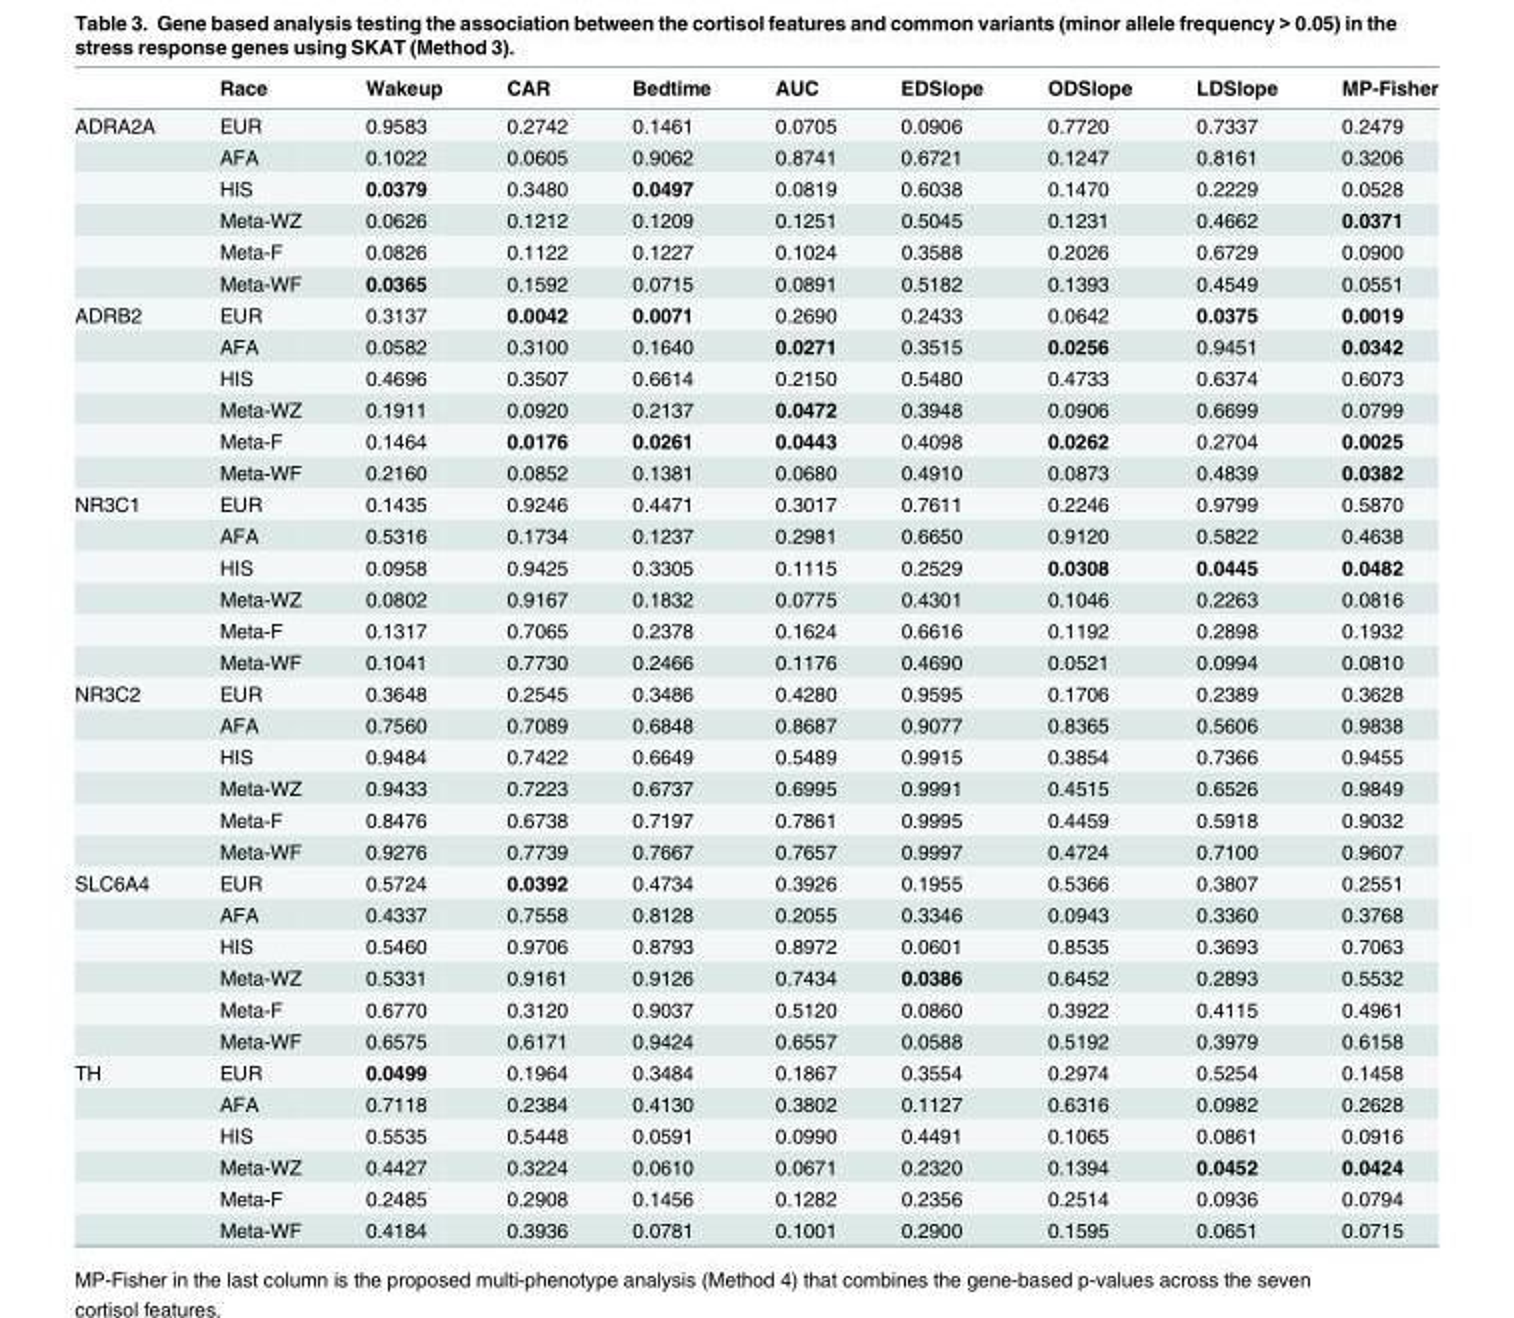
<table><thead><tr><td></td><td>Race</td><td>Wakeup</td><td>CAR</td><td>Bedtime</td><td>AUC</td><td>EDSlope</td><td>ODSlope</td><td>LDSlope</td><td>MP-Fisher</td></tr></thead><tbody><tr><td rowspan="6">ADRA2A</td><td>EUR</td><td>0.9583</td><td>0.2742</td><td>0.1461</td><td>0.0705</td><td>0.0906</td><td>0.7720</td><td>0.7337</td><td>0.2479</td></tr><tr><td>AFA</td><td>0.1022</td><td>0.0605</td><td>0.9062</td><td>0.8741</td><td>0.6721</td><td>0.1247</td><td>0.8161</td><td>0.3206</td></tr><tr><td>HIS</td><td>0.0379</td><td>0.3480</td><td>0.0497</td><td>0.0819</td><td>0.6038</td><td>0.1470</td><td>0.2229</td><td>0.0528</td></tr><tr><td>Meta-WZ</td><td>0.0626</td><td>0.1212</td><td>0.1209</td><td>0.1251</td><td>0.5045</td><td>0.1231</td><td>0.4662</td><td>0.0371</td></tr><tr><td>Meta-F</td><td>0.0826</td><td>0.1122</td><td>0.1227</td><td>0.1024</td><td>0.3588</td><td>0.2026</td><td>0.6729</td><td>0.0900</td></tr><tr><td>Meta-WF</td><td>0.0365</td><td>0.1592</td><td>0.0715</td><td>0.0891</td><td>0.5182</td><td>0.1393</td><td>0.4549</td><td>0.0551</td></tr><tr><td rowspan="6">ADRB2</td><td>EUR</td><td>0.3137</td><td>0.0042</td><td>0.0071</td><td>0.2690</td><td>0.2433</td><td>0.0642</td><td>0.0375</td><td>0.0019</td></tr><tr><td>AFA</td><td>0.0582</td><td>0.3100</td><td>0.1640</td><td>0.0271</td><td>0.3515</td><td>0.0256</td><td>0.9451</td><td>0.0342</td></tr><tr><td>HIS</td><td>0.4696</td><td>0.3507</td><td>0.6614</td><td>0.2150</td><td>0.5480</td><td>0.4733</td><td>0.6374</td><td>0.6073</td></tr><tr><td>Meta-WZ</td><td>0.1911</td><td>0.0920</td><td>0.2137</td><td>0.0472</td><td>0.3948</td><td>0.0906</td><td>0.6699</td><td>0.0799</td></tr><tr><td>Meta-F</td><td>0.1464</td><td>0.0176</td><td>0.0261</td><td>0.0443</td><td>0.4098</td><td>0.0262</td><td>0.2704</td><td>0.0025</td></tr><tr><td>Meta-WF</td><td>0.2160</td><td>0.0852</td><td>0.1381</td><td>0.0680</td><td>0.4910</td><td>0.0873</td><td>0.4839</td><td>0.0382</td></tr><tr><td rowspan="6">NR3C1</td><td>EUR</td><td>0.1435</td><td>0.9246</td><td>0.4471</td><td>0.3017</td><td>0.7611</td><td>0.2246</td><td>0.9799</td><td>0.5870</td></tr><tr><td>AFA</td><td>0.5316</td><td>0.1734</td><td>0.1237</td><td>0.2981</td><td>0.6650</td><td>0.9120</td><td>0.5822</td><td>0.4638</td></tr><tr><td>HIS</td><td>0.0958</td><td>0.9425</td><td>0.3305</td><td>0.1115</td><td>0.2529</td><td>0.0308</td><td>0.0445</td><td>0.0482</td></tr><tr><td>Meta-WZ</td><td>0.0802</td><td>0.9167</td><td>0.1832</td><td>0.0775</td><td>0.4301</td><td>0.1046</td><td>0.2263</td><td>0.0816</td></tr><tr><td>Meta-F</td><td>0.1317</td><td>0.7065</td><td>0.2378</td><td>0.1624</td><td>0.6616</td><td>0.1192</td><td>0.2898</td><td>0.1932</td></tr><tr><td>Meta-WF</td><td>0.1041</td><td>0.7730</td><td>0.2466</td><td>0.1176</td><td>0.4690</td><td>0.0521</td><td>0.0994</td><td>0.0810</td></tr><tr><td rowspan="6">NR3C2</td><td>EUR</td><td>0.3648</td><td>0.2545</td><td>0.3486</td><td>0.4280</td><td>0.9595</td><td>0.1706</td><td>0.2389</td><td>0.3628</td></tr><tr><td>AFA</td><td>0.7560</td><td>0.7089</td><td>0.6848</td><td>0.8687</td><td>0.9077</td><td>0.8365</td><td>0.5606</td><td>0.9838</td></tr><tr><td>HIS</td><td>0.9484</td><td>0.7422</td><td>0.6649</td><td>0.5489</td><td>0.9915</td><td>0.3854</td><td>0.7366</td><td>0.9455</td></tr><tr><td>Meta-WZ</td><td>0.9433</td><td>0.7223</td><td>0.6737</td><td>0.6995</td><td>0.9991</td><td>0.4515</td><td>0.6526</td><td>0.9849</td></tr><tr><td>Meta-F</td><td>0.8476</td><td>0.6738</td><td>0.7197</td><td>0.7861</td><td>0.9995</td><td>0.4459</td><td>0.5918</td><td>0.9032</td></tr><tr><td>Meta-WF</td><td>0.9276</td><td>0.7739</td><td>0.7667</td><td>0.7657</td><td>0.9997</td><td>0.4724</td><td>0.7100</td><td>0.9607</td></tr><tr><td rowspan="6">SLC6A4</td><td>EUR</td><td>0.5724</td><td>0.0392</td><td>0.4734</td><td>0.3926</td><td>0.1955</td><td>0.5366</td><td>0.3807</td><td>0.2551</td></tr><tr><td>AFA</td><td>0.4337</td><td>0.7558</td><td>0.8128</td><td>0.2055</td><td>0.3346</td><td>0.0943</td><td>0.3360</td><td>0.3768</td></tr><tr><td>HIS</td><td>0.5460</td><td>0.9706</td><td>0.8793</td><td>0.8972</td><td>0.0601</td><td>0.8535</td><td>0.3693</td><td>0.7063</td></tr><tr><td>Meta-WZ</td><td>0.5331</td><td>0.9161</td><td>0.9126</td><td>0.7434</td><td>0.0386</td><td>0.6452</td><td>0.2893</td><td>0.5532</td></tr><tr><td>Meta-F</td><td>0.6770</td><td>0.3120</td><td>0.9037</td><td>0.5120</td><td>0.0860</td><td>0.3922</td><td>0.4115</td><td>0.4961</td></tr><tr><td>Meta-WF</td><td>0.6575</td><td>0.6171</td><td>0.9424</td><td>0.6557</td><td>0.0588</td><td>0.5192</td><td>0.3979</td><td>0.6158</td></tr><tr><td rowspan="6">TH</td><td>EUR</td><td>0.0499</td><td>0.1964</td><td>0.3484</td><td>0.1867</td><td>0.3554</td><td>0.2974</td><td>0.5254</td><td>0.1458</td></tr><tr><td>AFA</td><td>0.7118</td><td>0.2384</td><td>0.4130</td><td>0.3802</td><td>0.1127</td><td>0.6316</td><td>0.0982</td><td>0.2628</td></tr><tr><td>HIS</td><td>0.5535</td><td>0.5448</td><td>0.0591</td><td>0.0990</td><td>0.4491</td><td>0.1065</td><td>0.0861</td><td>0.0916</td></tr><tr><td>Meta-WZ</td><td>0.4427</td><td>0.3224</td><td>0.0610</td><td>0.0671</td><td>0.2320</td><td>0.1394</td><td>0.0452</td><td>0.0424</td></tr><tr><td>Meta-F</td><td>0.2485</td><td>0.2908</td><td>0.1456</td><td>0.1282</td><td>0.2356</td><td>0.2514</td><td>0.0936</td><td>0.0794</td></tr><tr><td>Meta-WF</td><td>0.4184</td><td>0.3936</td><td>0.0781</td><td>0.1001</td><td>0.2900</td><td>0.1595</td><td>0.0651</td><td>0.0715</td></tr></tbody></table>